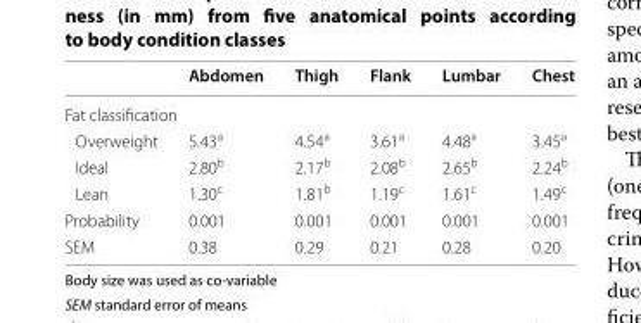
<table><thead><tr><td></td><td>Abdomen</td><td>Thigh</td><td>Flank</td><td>Lumbar</td><td>Chest</td></tr></thead><tbody><tr><td colspan="6">Fat classification</td></tr><tr><td>Overweight</td><td>5.43<sup>a</sup></td><td>4.54<sup>a</sup></td><td>3.61<sup>a</sup></td><td>4.48<sup>a</sup></td><td>3.45<sup>a</sup></td></tr><tr><td>Ideal</td><td>2.80<sup>b</sup></td><td>2.17<sup>b</sup></td><td>2.08<sup>b</sup></td><td>2.65<sup>b</sup></td><td>2.24<sup>b</sup></td></tr><tr><td>Lean</td><td>1.30<sup>c</sup></td><td>1.81<sup>b</sup></td><td>1.19<sup>c</sup></td><td>1.61<sup>c</sup></td><td>1.49<sup>c</sup></td></tr><tr><td>Probability</td><td>0.001</td><td>0.001</td><td>0.001</td><td>0.001</td><td>0.001</td></tr><tr><td>SEM</td><td>0.38</td><td>0.29</td><td>0.21</td><td>0.28</td><td>0.20</td></tr></tbody></table>